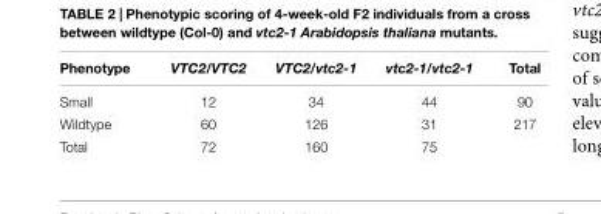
<table><thead><tr><td>Phenotype</td><td>VTC2/VTC2</td><td>VTC2/vtc2-1</td><td>vtc2-1/vtc2-1</td><td>Total</td></tr></thead><tbody><tr><td>Small</td><td>12</td><td>34</td><td>44</td><td>90</td></tr><tr><td>Wildtype</td><td>60</td><td>126</td><td>31</td><td>217</td></tr><tr><td>Total</td><td>72</td><td>160</td><td>75</td><td></td></tr></tbody></table>